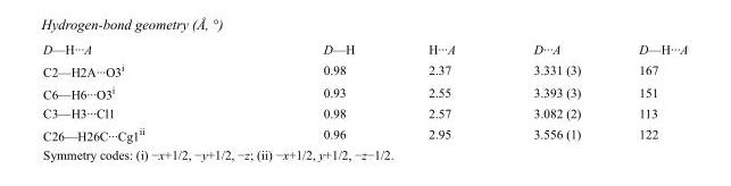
<table><tbody><tr><td>D—H···A</td><td>D—H</td><td>H···A</td><td>D···A</td><td>D—H···A</td></tr><tr><td>C2—H2A···O3<sup>i</sup></td><td>0.98</td><td>2.37</td><td>3.331 (3)</td><td>167</td></tr><tr><td>C6—H6···O3<sup>i</sup></td><td>0.93</td><td>2.55</td><td>3.393 (3)</td><td>151</td></tr><tr><td>C3—H3···Cl1</td><td>0.98</td><td>2.57</td><td>3.082 (2)</td><td>113</td></tr><tr><td>C26—H26C···Cg1<sup>ii</sup></td><td>0.96</td><td>2.95</td><td>3.556 (1)</td><td>122</td></tr></tbody></table>